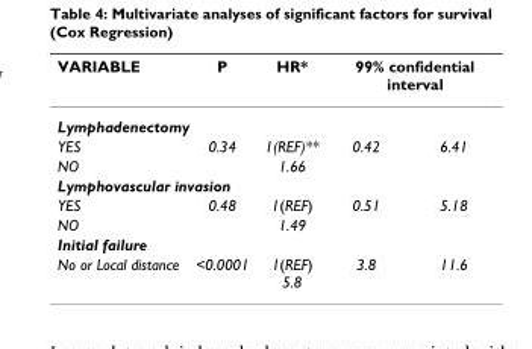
<table><thead><tr><td>VARIABLE</td><td>P</td><td>HR*</td><td colspan="2">99% confidential interval</td></tr><tr><td colspan="5">Lymphadenectomy</td></tr><tr><td>YES</td><td>0.34</td><td>1(REF)**</td><td>0.42</td><td>6.41</td></tr></thead><tbody><tr><td>NO</td><td></td><td>1.66</td><td></td><td></td></tr><tr><td colspan="5">Lymphovascular invasion</td></tr><tr><td>YES</td><td>0.48</td><td>1(REF)</td><td>0.51</td><td>5.18</td></tr><tr><td>NO</td><td></td><td>1.49</td><td></td><td></td></tr><tr><td colspan="5">Initial failure</td></tr><tr><td>No or Local distance</td><td>&lt;0.0001</td><td>1(REF) 5.8</td><td>3.8</td><td>11.6</td></tr></tbody></table>